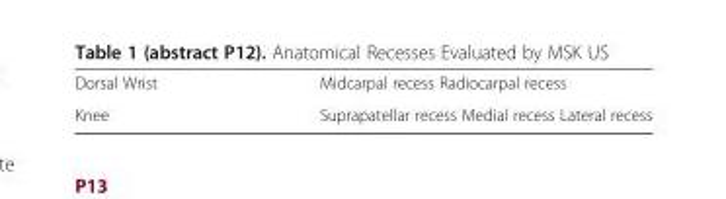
<table><tbody><tr><td>Dorsal Wrist</td><td>Midcarpal recess Radiocarpal recess</td></tr><tr><td>Knee</td><td>Suprapatellar recess Medial recess Lateral recess</td></tr></tbody></table>